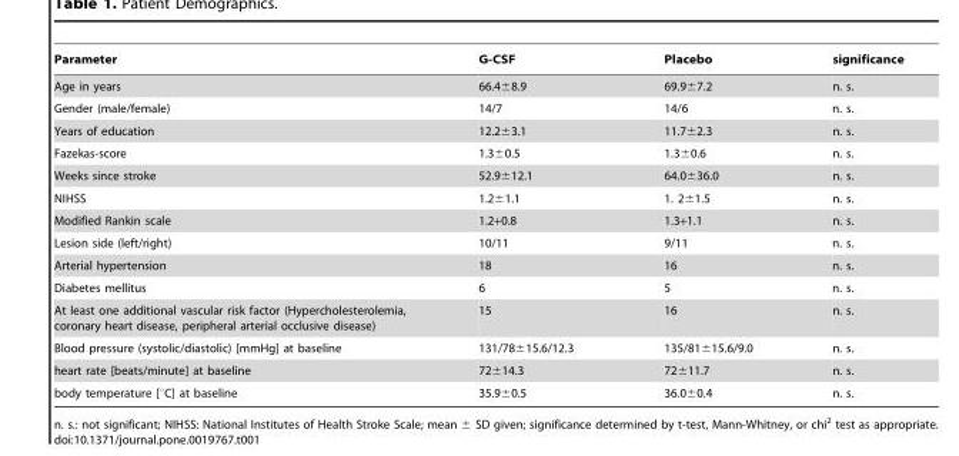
<table><thead><tr><td>Parameter</td><td>G-CSF</td><td>Placebo</td><td>significance</td></tr></thead><tbody><tr><td>Age in years</td><td>66.4±8.9</td><td>69.9±7.2</td><td>n. s.</td></tr><tr><td>Gender (male/female)</td><td>14/7</td><td>14/6</td><td>n. s.</td></tr><tr><td>Years of education</td><td>12.2±3.1</td><td>11.7±2.3</td><td>n. s.</td></tr><tr><td>Fazekas-score</td><td>1.3±0.5</td><td>1.3±0.6</td><td>n. s.</td></tr><tr><td>Weeks since stroke</td><td>52.9±12.1</td><td>64.0±36.0</td><td>n. s.</td></tr><tr><td>NIHSS</td><td>1.2±1.1</td><td>1. 2±1.5</td><td>n. s.</td></tr><tr><td>Modified Rankin scale</td><td>1.2+0.8</td><td>1.3+1.1</td><td>n. s.</td></tr><tr><td>Lesion side (left/right)</td><td>10/11</td><td>9/11</td><td>n. s.</td></tr><tr><td>Arterial hypertension</td><td>18</td><td>16</td><td>n. s.</td></tr><tr><td>Diabetes mellitus</td><td>6</td><td>5</td><td>n. s.</td></tr><tr><td>At least one additional vascular risk factor (Hypercholesterolemia, coronary heart disease, peripheral arterial occlusive disease)</td><td>15</td><td>16</td><td>n. s.</td></tr><tr><td>Blood pressure (systolic/diastolic) [mmHg] at baseline</td><td>131/78±15.6/12.3</td><td>135/81±15.6/9.0</td><td>n. s.</td></tr><tr><td>heart rate [beats/minute] at baseline</td><td>72±14.3</td><td>72±11.7</td><td>n. s.</td></tr><tr><td>body temperature [°C] at baseline</td><td>35.9±0.5</td><td>36.0±0.4</td><td>n. s.</td></tr></tbody></table>